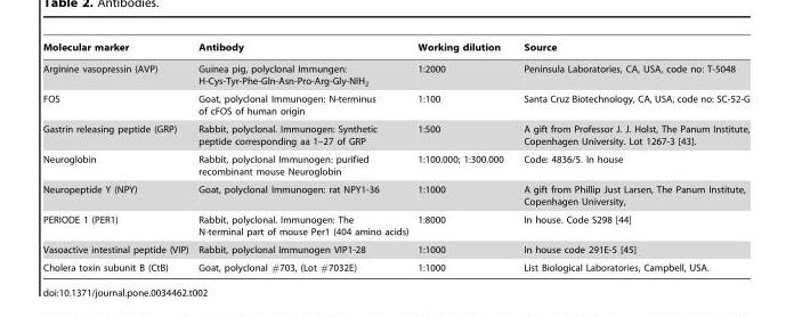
<table><thead><tr><td>Molecular marker</td><td>Antibody</td><td>Working dilution</td><td>Source</td></tr></thead><tbody><tr><td>Arginine vasopressin (AVP)</td><td>Guinea pig, polyclonal Immungen: H-Cys-Tyr-Phe-Gln-Asn-Pro-Arg-Gly-NIH<sub>2</sub></td><td>1:2000</td><td>Peninsula Laboratories, CA, USA, code no: T-5048</td></tr><tr><td>FOS</td><td>Goat, polyclonal Immunogen: N-terminus of cFOS of human origin</td><td>1:100</td><td>Santa Cruz Biotechnology, CA, USA, code no: SC-52-G</td></tr><tr><td>Gastrin releasing peptide (GRP)</td><td>Rabbit, polyclonal. Immunogen: Synthetic peptide corresponding aa 1–27 of GRP</td><td>1:500</td><td>A gift from Professor J. J. Holst, The Panum Institute, Copenhagen University. Lot 1267-3 [43].</td></tr><tr><td>Neuroglobin</td><td>Rabbit, polyclonal Immunogen: purified recombinant mouse Neuroglobin</td><td>1:100.000; 1:300.000</td><td>Code: 4836/5. In house</td></tr><tr><td>Neuropeptide Y (NPY)</td><td>Goat, polyclonal Immunogen: rat NPY1-36</td><td>1:1000</td><td>A gift from Phillip Just Larsen, The Panum Institute, Copenhagen University,</td></tr><tr><td>PERIODE 1 (PER1)</td><td>Rabbit, polyclonal. Immunogen: The N-terminal part of mouse Per1 (404 amino acids)</td><td>1:8000</td><td>In house. Code S298 [44]</td></tr><tr><td>Vasoactive intestinal peptide (VIP)</td><td>Rabbit, polyclonal Immunogen VIP1-28</td><td>1:1000</td><td>In house code 291E-5 [45]</td></tr><tr><td>Cholera toxin subunit B (CtB)</td><td>Goat, polyclonal #703, (Lot #7032E)</td><td>1:1000</td><td>List Biological Laboratories, Campbell, USA.</td></tr></tbody></table>